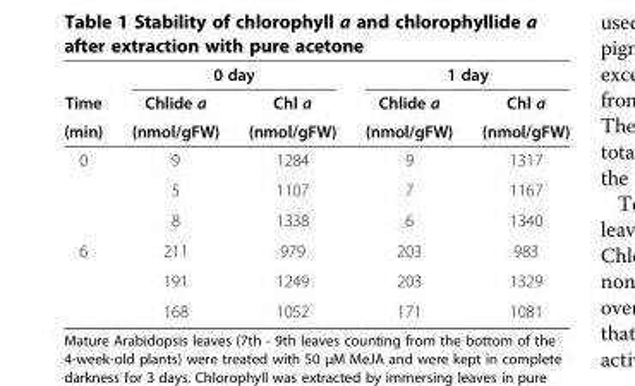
<table><thead><tr><td rowspan="3">Time (min)</td><td colspan="2">0 day</td><td colspan="2">1 day</td></tr><tr><td rowspan="2">Chlide a (nmol/gFW)</td><td rowspan="2">Chl a (nmol/gFW)</td><td rowspan="2">Chlide a (nmol/gFW)</td><td rowspan="2">Chl a (nmol/gFW)</td></tr><tr></tr></thead><tbody><tr><td rowspan="3">0</td><td>9</td><td>1284</td><td>9</td><td>1317</td></tr><tr><td>5</td><td>1107</td><td>7</td><td>1167</td></tr><tr><td>8</td><td>1338</td><td>6</td><td>1340</td></tr><tr><td rowspan="3">6</td><td>211</td><td>979</td><td>203</td><td>983</td></tr><tr><td>191</td><td>1249</td><td>203</td><td>1329</td></tr><tr><td>168</td><td>1052</td><td>171</td><td>1081</td></tr></tbody></table>